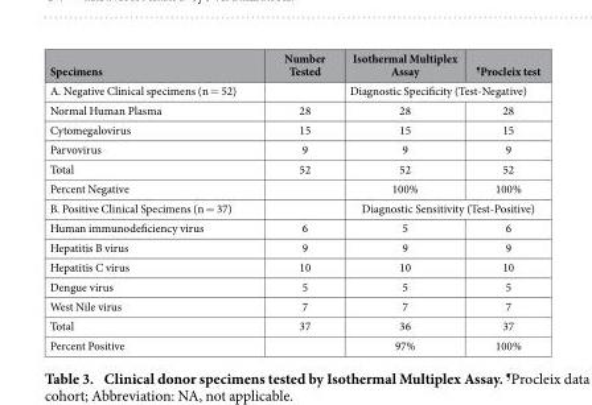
<table><thead><tr><td>Specimens</td><td>Number Tested</td><td>Isothermal Multiplex Assay</td><td><sup>¶</sup>Procleix test</td></tr></thead><tbody><tr><td>A. Negative Clinical specimens (n = 52)</td><td></td><td colspan="2">Diagnostic Specificity (Test-Negative)</td></tr><tr><td>Normal Human Plasma</td><td>28</td><td>28</td><td>28</td></tr><tr><td>Cytomegalovirus</td><td>15</td><td>15</td><td>15</td></tr><tr><td>Parvovirus</td><td>9</td><td>9</td><td>9</td></tr><tr><td>Total</td><td>52</td><td>52</td><td>52</td></tr><tr><td>Percent Negative</td><td></td><td>100%</td><td>100%</td></tr><tr><td>B. Positive Clinical Specimens (n = 37)</td><td></td><td colspan="2">Diagnostic Sensitivity (Test-Positive)</td></tr><tr><td>Human immunodeficiency virus</td><td>6</td><td>5</td><td>6</td></tr><tr><td>Hepatitis B virus</td><td>9</td><td>9</td><td>9</td></tr><tr><td>Hepatitis C virus</td><td>10</td><td>10</td><td>10</td></tr><tr><td>Dengue virus</td><td>5</td><td>5</td><td>5</td></tr><tr><td>West Nile virus</td><td>7</td><td>7</td><td>7</td></tr><tr><td>Total</td><td>37</td><td>36</td><td>37</td></tr><tr><td>Percent Positive</td><td></td><td>97%</td><td>100%</td></tr></tbody></table>